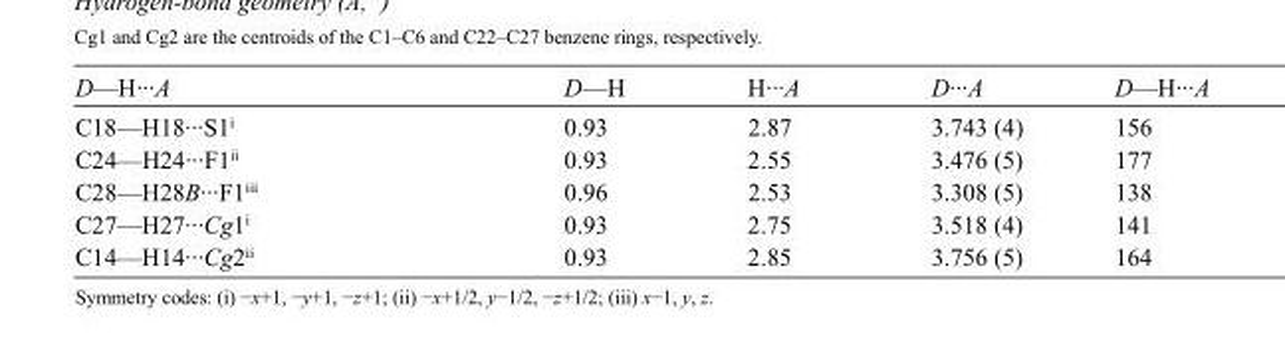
<table><tbody><tr><td>D—H···A</td><td>D—H</td><td>H···A</td><td>D···A</td><td>D—H···A</td></tr><tr><td>C18—H18···S1<sup>i</sup></td><td>0.93</td><td>2.87</td><td>3.743 (4)</td><td>156</td></tr><tr><td>C24—H24···F1<sup>ii</sup></td><td>0.93</td><td>2.55</td><td>3.476 (5)</td><td>177</td></tr><tr><td>C28—H28B···F1<sup>iii</sup></td><td>0.96</td><td>2.53</td><td>3.308 (5)</td><td>138</td></tr><tr><td>C27—H27···Cg1<sup>i</sup></td><td>0.93</td><td>2.75</td><td>3.518 (4)</td><td>141</td></tr><tr><td>C14—H14···Cg2<sup>ii</sup></td><td>0.93</td><td>2.85</td><td>3.756 (5)</td><td>164</td></tr></tbody></table>